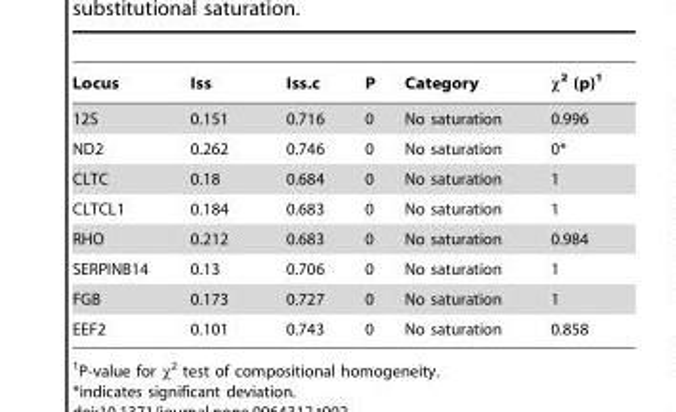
<table><thead><tr><td>Locus</td><td>Iss</td><td>Iss.c</td><td>P</td><td>Category</td><td>χ<sup>2</sup> (p)<sup>1</sup></td></tr></thead><tbody><tr><td>12S</td><td>0.151</td><td>0.716</td><td>0</td><td>No saturation</td><td>0.996</td></tr><tr><td>ND2</td><td>0.262</td><td>0.746</td><td>0</td><td>No saturation</td><td>0*</td></tr><tr><td>CLTC</td><td>0.18</td><td>0.684</td><td>0</td><td>No saturation</td><td>1</td></tr><tr><td>CLTCL1</td><td>0.184</td><td>0.683</td><td>0</td><td>No saturation</td><td>1</td></tr><tr><td>RHO</td><td>0.212</td><td>0.683</td><td>0</td><td>No saturation</td><td>0.984</td></tr><tr><td>SERPINB14</td><td>0.13</td><td>0.706</td><td>0</td><td>No saturation</td><td>1</td></tr><tr><td>FGB</td><td>0.173</td><td>0.727</td><td>0</td><td>No saturation</td><td>1</td></tr><tr><td>EEF2</td><td>0.101</td><td>0.743</td><td>0</td><td>No saturation</td><td>0.858</td></tr></tbody></table>